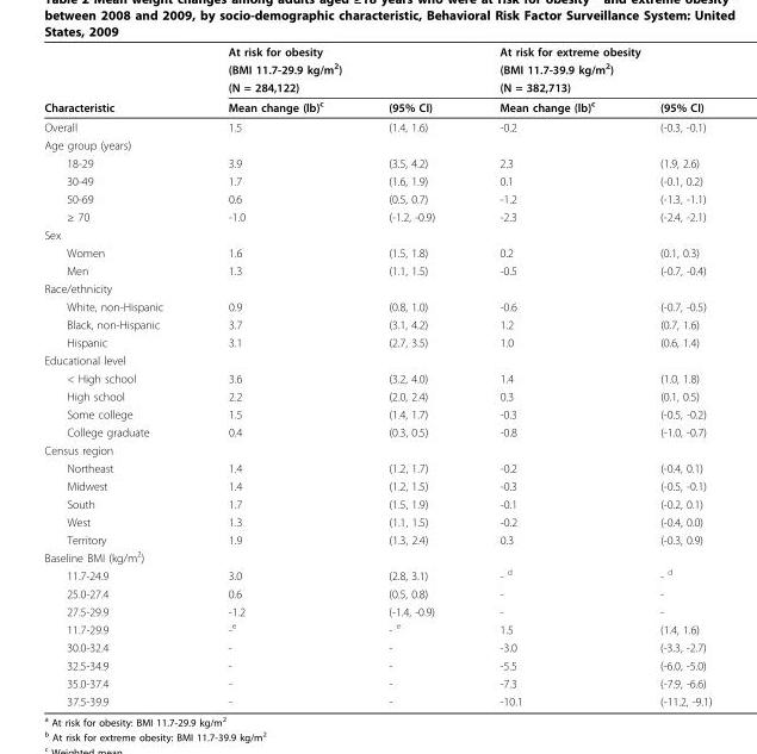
<table><thead><tr><td rowspan="4">Characteristic</td><td rowspan="3" colspan="2">At risk for obesity (BMI 11.7-29.9 kg/m<sup>2</sup>) (N = 284,122)</td><td rowspan="3" colspan="2">At risk for extreme obesity (BMI 11.7-39.9 kg/m<sup>2</sup>) (N = 382,713)</td></tr><tr></tr><tr></tr><tr><td>Mean change (lb)<sup>c</sup></td><td>(95% CI)</td><td>Mean change (lb)<sup>c</sup></td><td>(95% CI)</td></tr></thead><tbody><tr><td>Overall</td><td>1.5</td><td>(1.4, 1.6)</td><td>-0.2</td><td>(-0.3, -0.1)</td></tr><tr><td colspan="5">Age group (years)</td></tr><tr><td>18-29</td><td>3.9</td><td>(3.5, 4.2)</td><td>2.3</td><td>(1.9, 2.6)</td></tr><tr><td>30-49</td><td>1.7</td><td>(1.6, 1.9)</td><td>0.1</td><td>(-0.1, 0.2)</td></tr><tr><td>50-69</td><td>0.6</td><td>(0.5, 0.7)</td><td>-1.2</td><td>(-1.3, -1.1)</td></tr><tr><td>≥ 70</td><td>-1.0</td><td>(-1.2, -0.9)</td><td>-2.3</td><td>(-2.4, -2.1)</td></tr><tr><td colspan="5">Sex</td></tr><tr><td>Women</td><td>1.6</td><td>(1.5, 1.8)</td><td>0.2</td><td>(0.1, 0.3)</td></tr><tr><td>Men</td><td>1.3</td><td>(1.1, 1.5)</td><td>-0.5</td><td>(-0.7, -0.4)</td></tr><tr><td colspan="5">Race/ethnicity</td></tr><tr><td>White, non-Hispanic</td><td>0.9</td><td>(0.8, 1.0)</td><td>-0.6</td><td>(-0.7, -0.5)</td></tr><tr><td>Black, non-Hispanic</td><td>3.7</td><td>(3.1, 4.2)</td><td>1.2</td><td>(0.7, 1.6)</td></tr><tr><td>Hispanic</td><td>3.1</td><td>(2.7, 3.5)</td><td>1.0</td><td>(0.6, 1.4)</td></tr><tr><td colspan="5">Educational level</td></tr><tr><td>&lt; High school</td><td>3.6</td><td>(3.2, 4.0)</td><td>1.4</td><td>(1.0, 1.8)</td></tr><tr><td>High school</td><td>2.2</td><td>(2.0, 2.4)</td><td>0.3</td><td>(0.1, 0.5)</td></tr><tr><td>Some college</td><td>1.5</td><td>(1.4, 1.7)</td><td>-0.3</td><td>(-0.5, -0.2)</td></tr><tr><td>College graduate</td><td>0.4</td><td>(0.3, 0.5)</td><td>-0.8</td><td>(-1.0, -0.7)</td></tr><tr><td colspan="5">Census region</td></tr><tr><td>Northeast</td><td>1.4</td><td>(1.2, 1.7)</td><td>-0.2</td><td>(-0.4, 0.1)</td></tr><tr><td>Midwest</td><td>1.4</td><td>(1.2, 1.5)</td><td>-0.3</td><td>(-0.5, -0.1)</td></tr><tr><td>South</td><td>1.7</td><td>(1.5, 1.9)</td><td>-0.1</td><td>(-0.2, 0.1)</td></tr><tr><td>West</td><td>1.3</td><td>(1.1, 1.5)</td><td>-0.2</td><td>(-0.4, 0.0)</td></tr><tr><td>Territory</td><td>1.9</td><td>(1.3, 2.4)</td><td>0.3</td><td>(-0.3, 0.9)</td></tr><tr><td colspan="5">Baseline BMI (kg/m<sup>2</sup>)</td></tr><tr><td>11.7-24.9</td><td>3.0</td><td>(2.8, 3.1)</td><td>- <sup>d</sup></td><td>- <sup>d</sup></td></tr><tr><td>25.0-27.4</td><td>0.6</td><td>(0.5, 0.8)</td><td>-</td><td>-</td></tr><tr><td>27.5-29.9</td><td>-1.2</td><td>(-1.4, -0.9)</td><td>-</td><td>-</td></tr><tr><td>11.7-29.9</td><td>-<sup>e</sup></td><td>- <sup>e</sup></td><td>1.5</td><td>(1.4, 1.6)</td></tr><tr><td>30.0-32.4</td><td>-</td><td>-</td><td>-3.0</td><td>(-3.3, -2.7)</td></tr><tr><td>32.5-34.9</td><td>-</td><td>-</td><td>-5.5</td><td>(-6.0, -5.0)</td></tr><tr><td>35.0-37.4</td><td>-</td><td>-</td><td>-7.3</td><td>(-7.9, -6.6)</td></tr><tr><td>37.5-39.9</td><td>-</td><td>-</td><td>-10.1</td><td>(-11.2, -9.1)</td></tr></tbody></table>